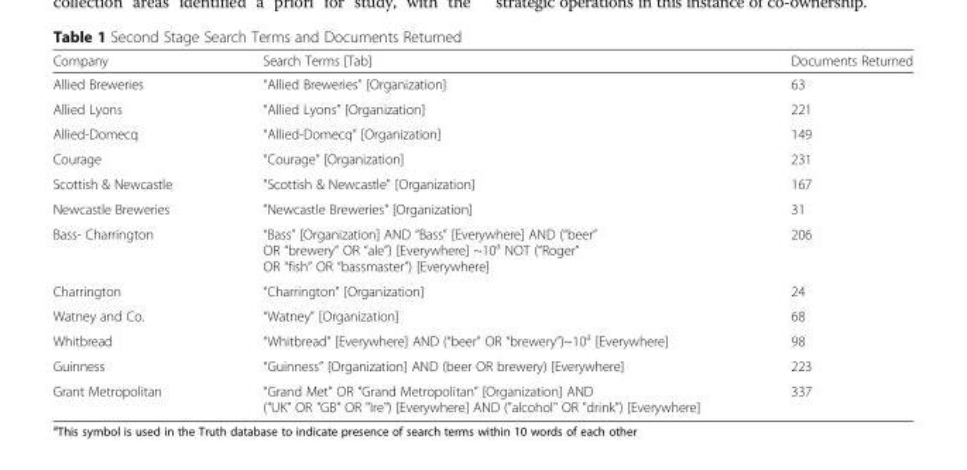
<table><thead><tr><td>Company</td><td>Search Terms [Tab]</td><td>Documents Returned</td></tr></thead><tbody><tr><td>Allied Breweries</td><td>“Allied Breweries” [Organization]</td><td>63</td></tr><tr><td>Allied Lyons</td><td>“Allied Lyons” [Organization]</td><td>221</td></tr><tr><td>Allied-Domecq</td><td>“Allied-Domecq” [Organization]</td><td>149</td></tr><tr><td>Courage</td><td>“Courage” [Organization]</td><td>231</td></tr><tr><td>Scottish &amp; Newcastle</td><td>&quot;Scottish &amp; Newcastle&quot; [Organization]</td><td>167</td></tr><tr><td>Newcastle Breweries</td><td>&quot;Newcastle Breweries&quot; [Organization]</td><td>31</td></tr><tr><td>Bass- Charrington</td><td>“Bass” [Organization] AND “Bass” [Everywhere] AND (“beer” OR “brewery” OR “ale”) [Everywhere] ~10<sup>a</sup> NOT (“Roger” OR “fish” OR “bassmaster”) [Everywhere]</td><td>206</td></tr><tr><td>Charrington</td><td>“Charrington” [Organization]</td><td>24</td></tr><tr><td>Watney and Co.</td><td>“Watney” [Organization]</td><td>68</td></tr><tr><td>Whitbread</td><td>“Whitbread” [Everywhere] AND (“beer” OR “brewery”)~10<sup>a</sup> [Everywhere]</td><td>98</td></tr><tr><td>Guinness</td><td>“Guinness” [Organization] AND (beer OR brewery) [Everywhere]</td><td>223</td></tr><tr><td>Grant Metropolitan</td><td>“Grand Met” OR “Grand Metropolitan” [Organization] AND (&quot;UK&quot; OR &quot;GB&quot; OR &quot;Ire&quot;) [Everywhere] AND (&quot;alcohol&quot; OR &quot;drink&quot;) [Everywhere]</td><td>337</td></tr></tbody></table>